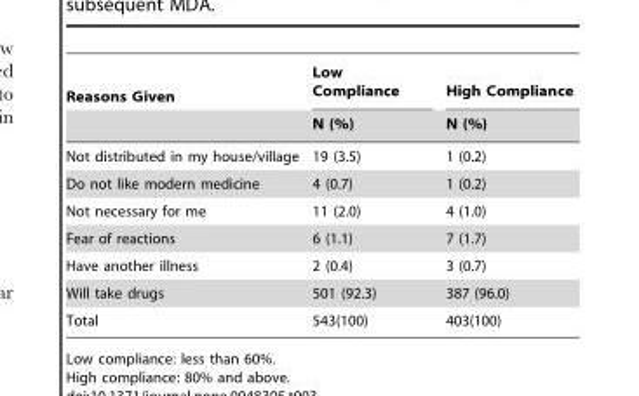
<table><thead><tr><td rowspan="2">Reasons Given</td><td rowspan="2">Low Compliance N (%)</td><td rowspan="2">High Compliance N (%)</td></tr><tr></tr></thead><tbody><tr><td>Not distributed in my house/village</td><td>19 (3.5)</td><td>1 (0.2)</td></tr><tr><td>Do not like modern medicine</td><td>4 (0.7)</td><td>1 (0.2)</td></tr><tr><td>Not necessary for me</td><td>11 (2.0)</td><td>4 (1.0)</td></tr><tr><td>Fear of reactions</td><td>6 (1.1)</td><td>7 (1.7)</td></tr><tr><td>Have another illness</td><td>2 (0.4)</td><td>3 (0.7)</td></tr><tr><td>Will take drugs</td><td>501 (92.3)</td><td>387 (96.0)</td></tr><tr><td>Total</td><td>543(100)</td><td>403(100)</td></tr></tbody></table>